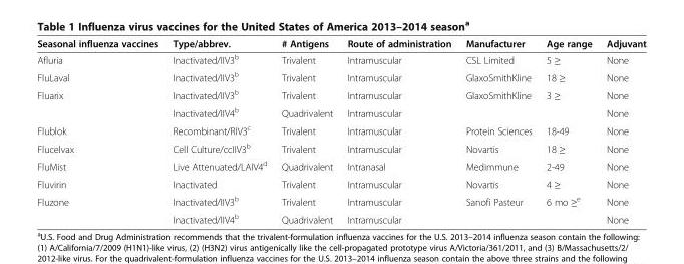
<table><thead><tr><td>Seasonal influenza vaccines</td><td>Type/abbrev.</td><td># Antigens</td><td>Route of administration</td><td>Manufacturer</td><td>Age range</td><td>Adjuvant</td></tr></thead><tbody><tr><td>Afluria</td><td>Inactivated/IIV3<sup>b</sup></td><td>Trivalent</td><td>Intramuscular</td><td>CSL Limited</td><td>5 ≥</td><td>None</td></tr><tr><td>FluLaval</td><td>Inactivated/IIV3<sup>b</sup></td><td>Trivalent</td><td>Intramuscular</td><td>GlaxoSmithKline</td><td>18 ≥</td><td>None</td></tr><tr><td rowspan="2">Fluarix</td><td>Inactivated/IIV3<sup>b</sup></td><td>Trivalent</td><td>Intramuscular</td><td rowspan="2">GlaxoSmithKline</td><td rowspan="2">3 ≥</td><td>None</td></tr><tr><td>Inactivated/IIV4<sup>b</sup></td><td>Quadrivalent</td><td>Intramuscular</td><td>None</td></tr><tr><td>Flublok</td><td>Recombinant/RIV3<sup>c</sup></td><td>Trivalent</td><td>Intramuscular</td><td>Protein Sciences</td><td>18-49</td><td>None</td></tr><tr><td>Flucelvax</td><td>Cell Culture/ccIIV3<sup>b</sup></td><td>Trivalent</td><td>Intramuscular</td><td>Novartis</td><td>18 ≥</td><td>None</td></tr><tr><td>FluMist</td><td>Live Attenuated/LAIV4<sup>d</sup></td><td>Quadrivalent</td><td>Intranasal</td><td>Medimmune</td><td>2-49</td><td>None</td></tr><tr><td>Fluvirin</td><td>Inactivated</td><td>Trivalent</td><td>Intramuscular</td><td>Novartis</td><td>4 ≥</td><td>None</td></tr><tr><td rowspan="2">Fluzone</td><td>Inactivated/IIV3<sup>b</sup></td><td>Trivalent</td><td>Intramuscular</td><td rowspan="2">Sanofi Pasteur</td><td rowspan="2">6 mo ≥<sup>e</sup></td><td>None</td></tr><tr><td>Inactivated/IIV4<sup>b</sup></td><td>Quadrivalent</td><td>Intramuscular</td><td>None</td></tr></tbody></table>